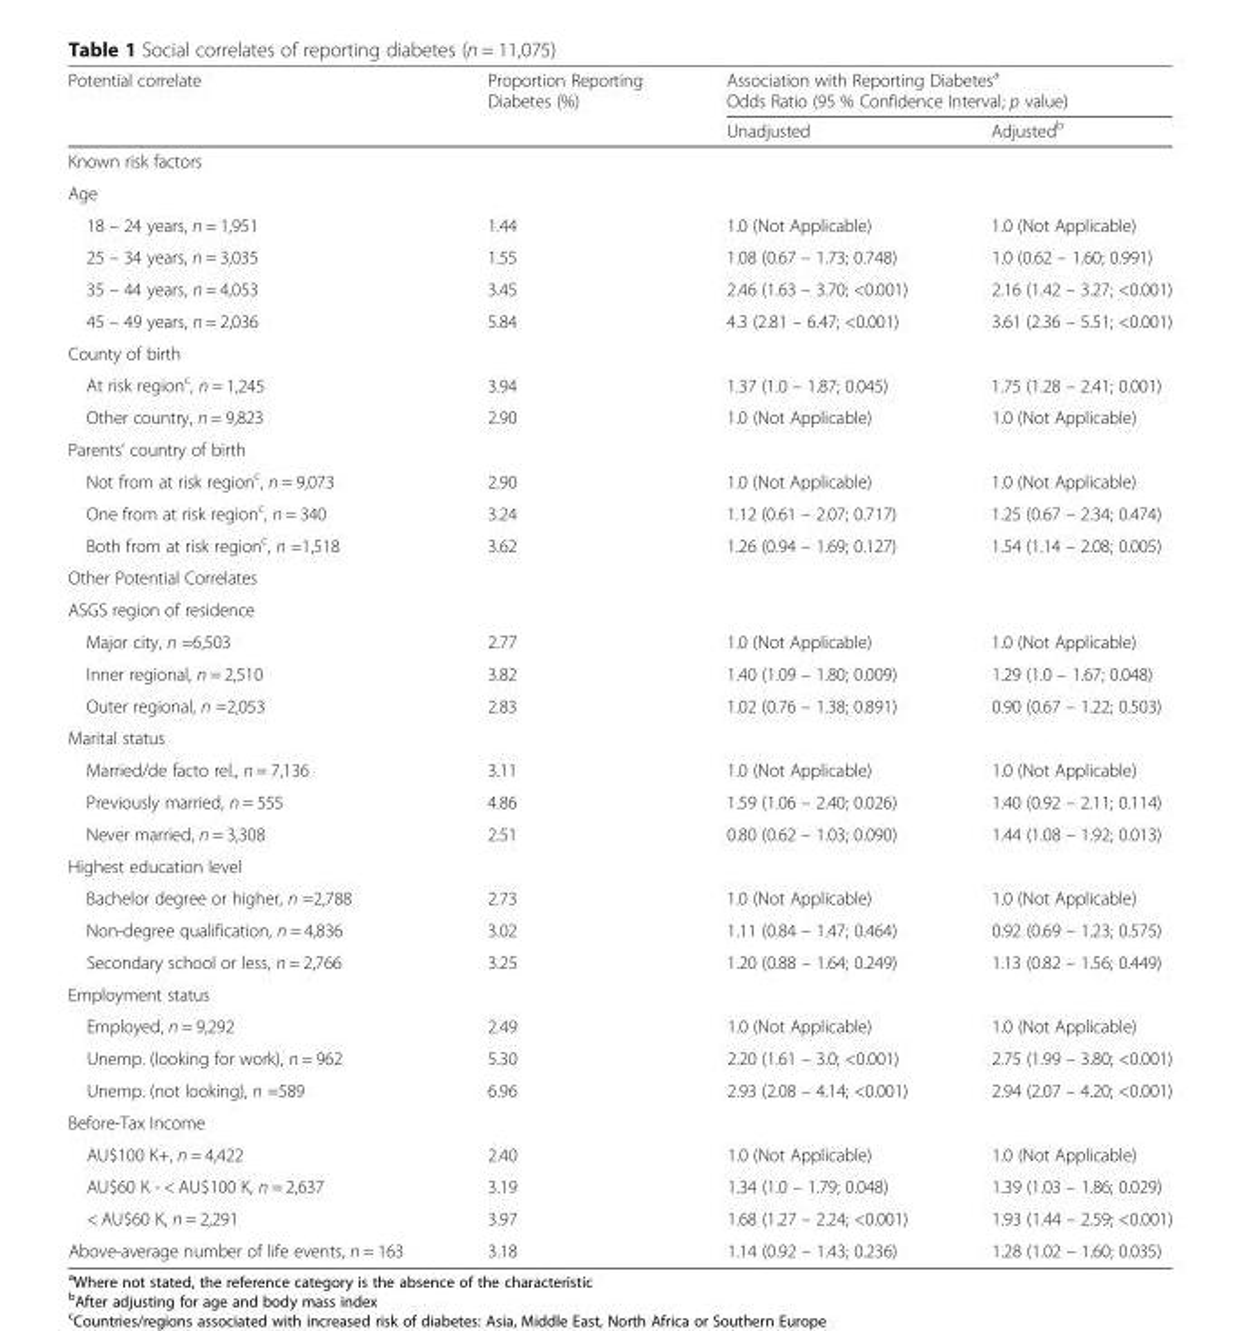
<table><thead><tr><td rowspan="2">Potential correlate</td><td rowspan="2">Proportion Reporting Diabetes (%)</td><td colspan="2">Association with Reporting Diabetes<sup>a</sup> Odds Ratio (95 % Confidence Interval; p value)</td></tr><tr><td>Unadjusted</td><td>Adjusted<sup>b</sup></td></tr></thead><tbody><tr><td colspan="4">Known risk factors</td></tr><tr><td colspan="4">Age</td></tr><tr><td>18 – 24 years, n = 1,951</td><td>1.44</td><td>1.0 (Not Applicable)</td><td>1.0 (Not Applicable)</td></tr><tr><td>25 – 34 years, n = 3,035</td><td>1.55</td><td>1.08 (0.67 – 1.73; 0.748)</td><td>1.0 (0.62 – 1.60; 0.991)</td></tr><tr><td>35 – 44 years, n = 4,053</td><td>3.45</td><td>2.46 (1.63 – 3.70; &lt;0.001)</td><td>2.16 (1.42 – 3.27; &lt;0.001)</td></tr><tr><td>45 – 49 years, n = 2,036</td><td>5.84</td><td>4.3 (2.81 – 6.47; &lt;0.001)</td><td>3.61 (2.36 – 5.51; &lt;0.001)</td></tr><tr><td colspan="4">County of birth</td></tr><tr><td>At risk region<sup>c</sup>, n = 1,245</td><td>3.94</td><td>1.37 (1.0 – 1.87; 0.045)</td><td>1.75 (1.28 – 2.41; 0.001)</td></tr><tr><td>Other country, n = 9,823</td><td>2.90</td><td>1.0 (Not Applicable)</td><td>1.0 (Not Applicable)</td></tr><tr><td colspan="4">Parents’ country of birth</td></tr><tr><td>Not from at risk region<sup>c</sup>, n = 9,073</td><td>2.90</td><td>1.0 (Not Applicable)</td><td>1.0 (Not Applicable)</td></tr><tr><td>One from at risk region<sup>c</sup>, n = 340</td><td>3.24</td><td>1.12 (0.61 – 2.07; 0.717)</td><td>1.25 (0.67 – 2.34; 0.474)</td></tr><tr><td>Both from at risk region<sup>c</sup>, n =1,518</td><td>3.62</td><td>1.26 (0.94 – 1.69; 0.127)</td><td>1.54 (1.14 – 2.08; 0.005)</td></tr><tr><td colspan="4">Other Potential Correlates</td></tr><tr><td colspan="4">ASGS region of residence</td></tr><tr><td>Major city, n =6,503</td><td>2.77</td><td>1.0 (Not Applicable)</td><td>1.0 (Not Applicable)</td></tr><tr><td>Inner regional, n = 2,510</td><td>3.82</td><td>1.40 (1.09 – 1.80; 0.009)</td><td>1.29 (1.0 – 1.67; 0.048)</td></tr><tr><td>Outer regional, n =2,053</td><td>2.83</td><td>1.02 (0.76 – 1.38; 0.891)</td><td>0.90 (0.67 – 1.22; 0.503)</td></tr><tr><td colspan="4">Marital status</td></tr><tr><td>Married/de facto rel., n = 7,136</td><td>3.11</td><td>1.0 (Not Applicable)</td><td>1.0 (Not Applicable)</td></tr><tr><td>Previously married, n = 555</td><td>4.86</td><td>1.59 (1.06 – 2.40; 0.026)</td><td>1.40 (0.92 – 2.11; 0.114)</td></tr><tr><td>Never married, n = 3,308</td><td>2.51</td><td>0.80 (0.62 – 1.03; 0.090)</td><td>1.44 (1.08 – 1.92; 0.013)</td></tr><tr><td colspan="4">Highest education level</td></tr><tr><td>Bachelor degree or higher, n =2,788</td><td>2.73</td><td>1.0 (Not Applicable)</td><td>1.0 (Not Applicable)</td></tr><tr><td>Non-degree qualification, n = 4,836</td><td>3.02</td><td>1.11 (0.84 – 1.47; 0.464)</td><td>0.92 (0.69 – 1.23; 0.575)</td></tr><tr><td>Secondary school or less, n = 2,766</td><td>3.25</td><td>1.20 (0.88 – 1.64; 0.249)</td><td>1.13 (0.82 – 1.56; 0.449)</td></tr><tr><td colspan="4">Employment status</td></tr><tr><td>Employed, n = 9,292</td><td>2.49</td><td>1.0 (Not Applicable)</td><td>1.0 (Not Applicable)</td></tr><tr><td>Unemp. (looking for work), n = 962</td><td>5.30</td><td>2.20 (1.61 – 3.0; &lt;0.001)</td><td>2.75 (1.99 – 3.80; &lt;0.001)</td></tr><tr><td>Unemp. (not looking), n =589</td><td>6.96</td><td>2.93 (2.08 – 4.14; &lt;0.001)</td><td>2.94 (2.07 – 4.20; &lt;0.001)</td></tr><tr><td colspan="4">Before-Tax Income</td></tr><tr><td>AU$100 K+, n = 4,422</td><td>2.40</td><td>1.0 (Not Applicable)</td><td>1.0 (Not Applicable)</td></tr><tr><td>AU$60 K - &lt; AU$100 K, n = 2,637</td><td>3.19</td><td>1.34 (1.0 – 1.79; 0.048)</td><td>1.39 (1.03 – 1.86; 0.029)</td></tr><tr><td>&lt; AU$60 K, n = 2,291</td><td>3.97</td><td>1.68 (1.27 – 2.24; &lt;0.001)</td><td>1.93 (1.44 – 2.59; &lt;0.001)</td></tr><tr><td>Above-average number of life events, n = 163</td><td>3.18</td><td>1.14 (0.92 – 1.43; 0.236)</td><td>1.28 (1.02 – 1.60; 0.035)</td></tr></tbody></table>